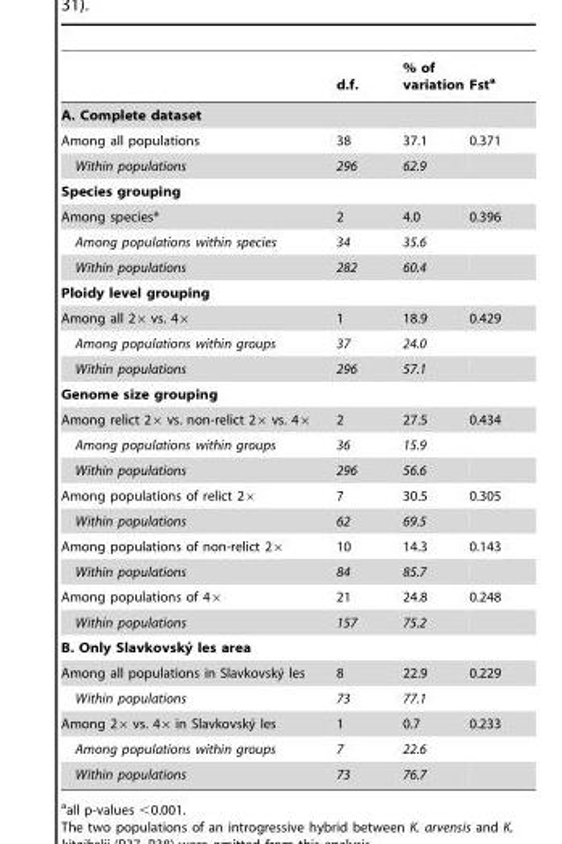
<table><thead><tr><td></td><td>d.f.</td><td>% of variation</td><td>Fst<sup>a</sup></td></tr></thead><tbody><tr><td colspan="4">A. Complete dataset</td></tr><tr><td>Among all populations</td><td>38</td><td>37.1</td><td>0.371</td></tr><tr><td>Within populations</td><td>296</td><td>62.9</td><td></td></tr><tr><td colspan="4">Species grouping</td></tr><tr><td>Among species*</td><td>2</td><td>4.0</td><td>0.396</td></tr><tr><td>Among populations within species</td><td>34</td><td>35.6</td><td></td></tr><tr><td>Within populations</td><td>282</td><td>60.4</td><td></td></tr><tr><td colspan="4">Ploidy level grouping</td></tr><tr><td>Among all 2× vs. 4×</td><td>1</td><td>18.9</td><td>0.429</td></tr><tr><td>Among populations within groups</td><td>37</td><td>24.0</td><td></td></tr><tr><td>Within populations</td><td>296</td><td>57.1</td><td></td></tr><tr><td colspan="4">Genome size grouping</td></tr><tr><td>Among relict 2× vs. non-relict 2× vs. 4×</td><td>2</td><td>27.5</td><td>0.434</td></tr><tr><td>Among populations within groups</td><td>36</td><td>15.9</td><td></td></tr><tr><td>Within populations</td><td>296</td><td>56.6</td><td></td></tr><tr><td>Among populations of relict 2×</td><td>7</td><td>30.5</td><td>0.305</td></tr><tr><td>Within populations</td><td>62</td><td>69.5</td><td></td></tr><tr><td>Among populations of non-relict 2×</td><td>10</td><td>14.3</td><td>0.143</td></tr><tr><td>Within populations</td><td>84</td><td>85.7</td><td></td></tr><tr><td>Among populations of 4×</td><td>21</td><td>24.8</td><td>0.248</td></tr><tr><td>Within populations</td><td>157</td><td>75.2</td><td></td></tr><tr><td colspan="4">B. Only Slavkovsky´ les area</td></tr><tr><td>Among all populations in Slavkovsky´ les</td><td>8</td><td>22.9</td><td>0.229</td></tr><tr><td>Within populations</td><td>73</td><td>77.1</td><td></td></tr><tr><td>Among 26 vs. 46 in Slavkovsky´ les</td><td>1</td><td>0.7</td><td>0.233</td></tr><tr><td>Among populations within groups</td><td>7</td><td>22.6</td><td></td></tr><tr><td>Within populations</td><td>73</td><td>76.7</td><td></td></tr></tbody></table>